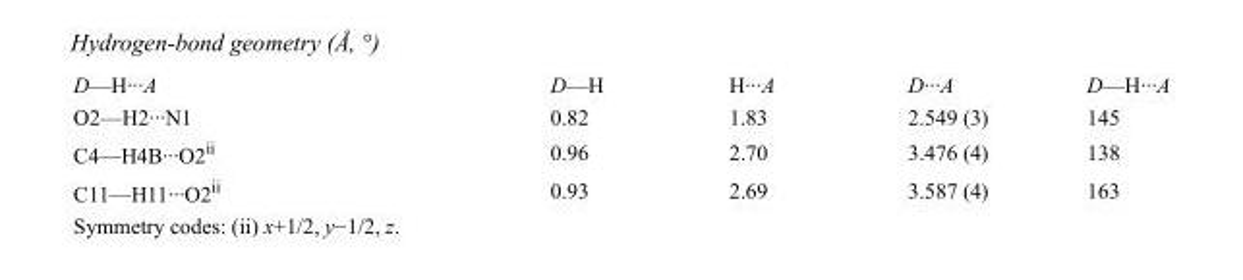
<table><tbody><tr><td>D—H···A</td><td>D—H</td><td>H···A</td><td>D···A</td><td>D—H···A</td></tr><tr><td>O2—H2···N1</td><td>0.82</td><td>1.83</td><td>2.549 (3)</td><td>145</td></tr><tr><td>C4—H4B···O2<sup>ii</sup></td><td>0.96</td><td>2.70</td><td>3.476 (4)</td><td>138</td></tr><tr><td>C11—H11···O2<sup>ii</sup></td><td>0.93</td><td>2.69</td><td>3.587 (4)</td><td>163</td></tr></tbody></table>